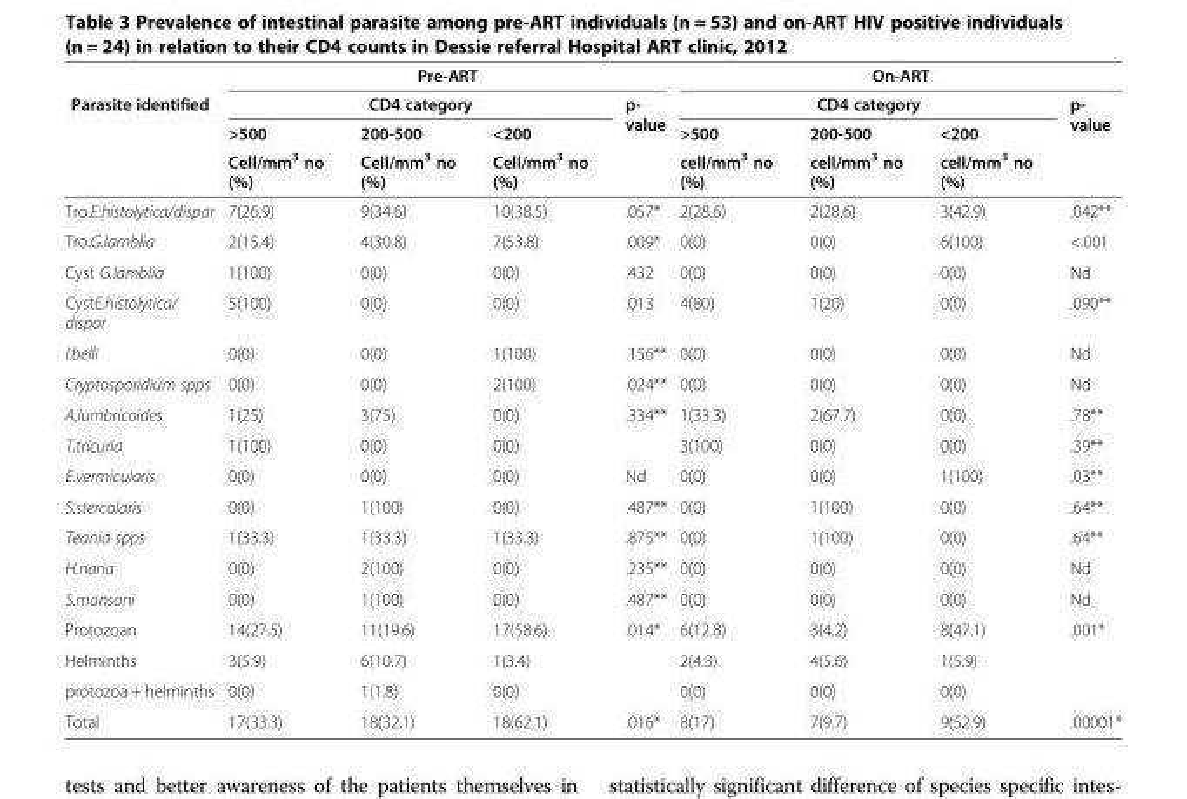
<table><thead><tr><td rowspan="4">Parasite identified</td><td colspan="4">Pre-ART</td><td colspan="4">On-ART</td></tr><tr><td colspan="3">CD4 category</td><td rowspan="3">p- value</td><td colspan="3">CD4 category</td><td rowspan="3">p- value</td></tr><tr><td rowspan="2">&gt;500 Cell/mm3 no (%)</td><td rowspan="2">200-500 Cell/mm3 no (%)</td><td rowspan="2">&lt;200 Cell/mm3 no (%)</td><td rowspan="2">&gt;500 cell/mm3 no (%)</td><td rowspan="2">200-500 cell/mm3 no (%)</td><td rowspan="2">&lt;200 cell/mm3 no (%)</td></tr><tr></tr></thead><tbody><tr><td>Tro.E.histolytica/dispar</td><td>7(26.9)</td><td>9(34.6)</td><td>10(38.5)</td><td>.057*</td><td>2(28.6)</td><td>2(28.6)</td><td>3(42.9)</td><td>.042**</td></tr><tr><td>Tro.G.lamblia</td><td>2(15.4)</td><td>4(30.8)</td><td>7(53.8)</td><td>.009*</td><td>0(0)</td><td>0(0)</td><td>6(100)</td><td>&lt;.001</td></tr><tr><td>Cyst G.lamblia</td><td>1(100)</td><td>0(0)</td><td>0(0)</td><td>.432</td><td>0(0)</td><td>0(0)</td><td>0(0)</td><td>Nd</td></tr><tr><td>CystE.histolytica/ dispar</td><td>5(100)</td><td>0(0)</td><td>0(0)</td><td>.013</td><td>4(80)</td><td>1(20)</td><td>0(0)</td><td>.090**</td></tr><tr><td>I.belli</td><td>0(0)</td><td>0(0)</td><td>1(100)</td><td>.156**</td><td>0(0)</td><td>0(0)</td><td>0(0)</td><td>Nd</td></tr><tr><td>Cryptosporidium spps</td><td>0(0)</td><td>0(0)</td><td>2(100)</td><td>.024**</td><td>0(0)</td><td>0(0)</td><td>0(0)</td><td>Nd</td></tr><tr><td>A.lumbricoides</td><td>1(25)</td><td>3(75)</td><td>0(0)</td><td>.334**</td><td>1(33.3)</td><td>2(67.7)</td><td>0(0)</td><td>.78**</td></tr><tr><td>T.tricuria</td><td>1(100)</td><td>0(0)</td><td>0(0)</td><td></td><td>3(100)</td><td>0(0)</td><td>0(0)</td><td>.39**</td></tr><tr><td>E.vermicularis</td><td>0(0)</td><td>0(0)</td><td>0(0)</td><td>Nd</td><td>0(0)</td><td>0(0)</td><td>1(100)</td><td>.03**</td></tr><tr><td>S.stercolaris</td><td>0(0)</td><td>1(100)</td><td>0(0)</td><td>.487**</td><td>0(0)</td><td>1(100)</td><td>0(0)</td><td>.64**</td></tr><tr><td>Teania spps</td><td>1(33.3)</td><td>1(33.3)</td><td>1(33.3)</td><td>.875**</td><td>0(0)</td><td>1(100)</td><td>0(0)</td><td>.64**</td></tr><tr><td>H.nana</td><td>0(0)</td><td>2(100)</td><td>0(0)</td><td>.235**</td><td>0(0)</td><td>0(0)</td><td>0(0)</td><td>Nd</td></tr><tr><td>S.mansoni</td><td>0(0)</td><td>1(100)</td><td>0(0)</td><td>.487**</td><td>0(0)</td><td>0(0)</td><td>0(0)</td><td>Nd</td></tr><tr><td>Protozoan</td><td>14(27.5)</td><td>11(19.6)</td><td>17(58.6)</td><td rowspan="3">.014*</td><td>6(12.8)</td><td>3(4.2)</td><td>8(47.1)</td><td rowspan="3">.001*</td></tr><tr><td>Helminths</td><td>3(5.9)</td><td>6(10.7)</td><td>1(3.4)</td><td>2(4.3)</td><td>4(5.6)</td><td>1(5.9)</td></tr><tr><td>protozoa + helminths</td><td>0(0)</td><td>1(1.8)</td><td>0(0)</td><td>0(0)</td><td>0(0)</td><td>0(0)</td></tr><tr><td>Total</td><td>17(33.3)</td><td>18(32.1)</td><td>18(62.1)</td><td>.016*</td><td>8(17)</td><td>7(9.7)</td><td>9(52.9)</td><td>.00001*</td></tr></tbody></table>